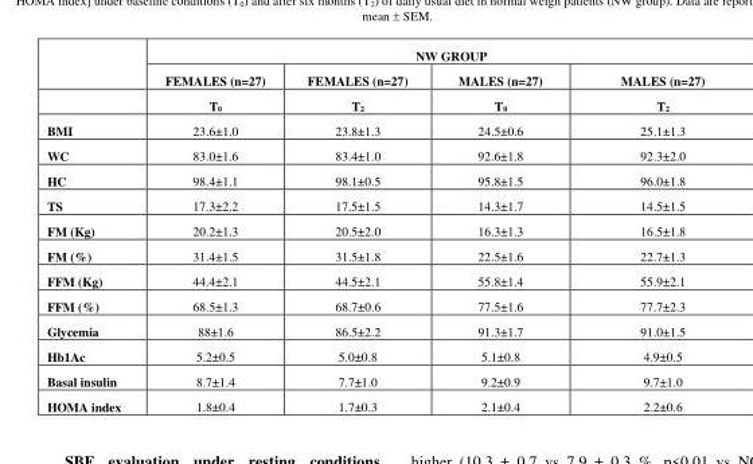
<table><thead><tr><td rowspan="3"></td><td colspan="4">NW GROUP</td></tr><tr><td rowspan="2">FEMALES (n=27) T0</td><td rowspan="2">FEMALES (n=27) T2</td><td rowspan="2">MALES (n=27) T0</td><td rowspan="2">MALES (n=27) T2</td></tr><tr></tr></thead><tbody><tr><td>BMI</td><td>23.6±1.0</td><td>23.8±1.3</td><td>24.5±0.6</td><td>25.1±1.3</td></tr><tr><td>WC</td><td>83.0±1.6</td><td>83.4±1.0</td><td>92.6±1.8</td><td>92.3±2.0</td></tr><tr><td>HC</td><td>98.4±1.1</td><td>98.1±0.5</td><td>95.8±1.5</td><td>96.0±1.8</td></tr><tr><td>TS</td><td>17.3±2.2</td><td>17.5±1.5</td><td>14.3±1.7</td><td>14.5±1.5</td></tr><tr><td>FM (Kg)</td><td>20.2±1.3</td><td>20.5±2.0</td><td>16.3±1.3</td><td>16.5±1.8</td></tr><tr><td>FM (%)</td><td>31.4±1.5</td><td>31.5±1.8</td><td>22.5±1.6</td><td>22.7±1.3</td></tr><tr><td>FFM (Kg)</td><td>44.4±2.1</td><td>44.5±2.1</td><td>55.8±1.4</td><td>55.9±2.1</td></tr><tr><td>FFM (%)</td><td>68.5±1.3</td><td>68.7±0.6</td><td>77.5±1.6</td><td>77.7±2.3</td></tr><tr><td>Glycemia</td><td>88±1.6</td><td>86.5±2.2</td><td>91.3±1.7</td><td>91.0±1.5</td></tr><tr><td>Hb1Ac</td><td>5.2±0.5</td><td>5.0±0.8</td><td>5.1±0.8</td><td>4.9±0.5</td></tr><tr><td>Basal insulin</td><td>8.7±1.4</td><td>7.7±1.0</td><td>9.2±0.9</td><td>9.7±1.0</td></tr><tr><td>HOMA index</td><td>1.8±0.4</td><td>1.7±0.3</td><td>2.1±0.4</td><td>2.2±0.6</td></tr></tbody></table>